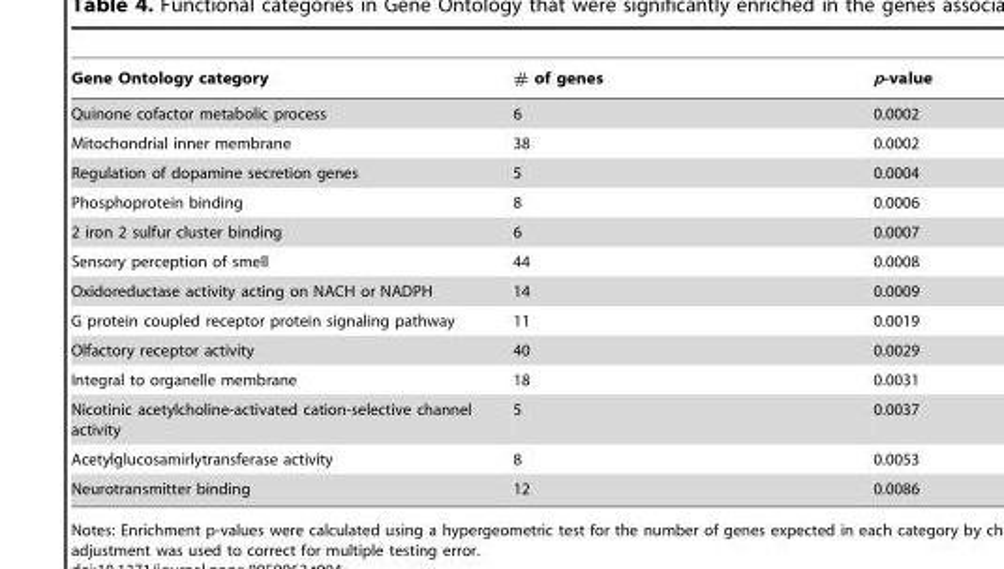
<table><thead><tr><td>Gene Ontology category</td><td># of genes</td><td>p-value</td></tr></thead><tbody><tr><td>Quinone cofactor metabolic process</td><td>6</td><td>0.0002</td></tr><tr><td>Mitochondrial inner membrane</td><td>38</td><td>0.0002</td></tr><tr><td>Regulation of dopamine secretion genes</td><td>5</td><td>0.0004</td></tr><tr><td>Phosphoprotein binding</td><td>8</td><td>0.0006</td></tr><tr><td>2 iron 2 sulfur cluster binding</td><td>6</td><td>0.0007</td></tr><tr><td>Sensory perception of smell</td><td>44</td><td>0.0008</td></tr><tr><td>Oxidoreductase activity acting on NACH or NADPH</td><td>14</td><td>0.0009</td></tr><tr><td>G protein coupled receptor protein signaling pathway</td><td>11</td><td>0.0019</td></tr><tr><td>Olfactory receptor activity</td><td>40</td><td>0.0029</td></tr><tr><td>Integral to organelle membrane</td><td>18</td><td>0.0031</td></tr><tr><td>Nicotinic acetylcholine-activated cation-selective channel activity</td><td>5</td><td>0.0037</td></tr><tr><td>Acetylglucosamirlytransferase activity</td><td>8</td><td>0.0053</td></tr><tr><td>Neurotransmitter binding</td><td>12</td><td>0.0086</td></tr></tbody></table>